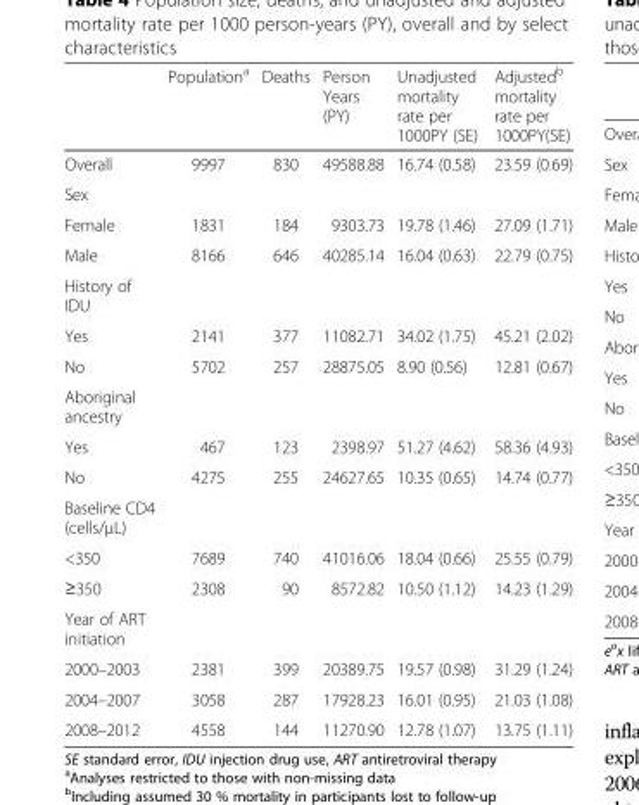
<table><thead><tr><td></td><td>Population<sup>a</sup></td><td>Deaths</td><td>Person Years (PY)</td><td>Unadjusted mortality rate per 1000PY (SE)</td><td>Adjusted<sup>b</sup> mortality rate per 1000PY(SE)</td></tr></thead><tbody><tr><td>Overall</td><td>9997</td><td>830</td><td>49588.88</td><td>16.74 (0.58)</td><td>23.59 (0.69)</td></tr><tr><td colspan="6">Sex</td></tr><tr><td>Female</td><td>1831</td><td>184</td><td>9303.73</td><td>19.78 (1.46)</td><td>27.09 (1.71)</td></tr><tr><td>Male</td><td>8166</td><td>646</td><td>40285.14</td><td>16.04 (0.63)</td><td>22.79 (0.75)</td></tr><tr><td colspan="6">History of IDU</td></tr><tr><td>Yes</td><td>2141</td><td>377</td><td>11082.71</td><td>34.02 (1.75)</td><td>45.21 (2.02)</td></tr><tr><td>No</td><td>5702</td><td>257</td><td>28875.05</td><td>8.90 (0.56)</td><td>12.81 (0.67)</td></tr><tr><td colspan="6">Aboriginal ancestry</td></tr><tr><td>Yes</td><td>467</td><td>123</td><td>2398.97</td><td>51.27 (4.62)</td><td>58.36 (4.93)</td></tr><tr><td>No</td><td>4275</td><td>255</td><td>24627.65</td><td>10.35 (0.65)</td><td>14.74 (0.77)</td></tr><tr><td colspan="6">Baseline CD4 (cells/μL)</td></tr><tr><td>&lt;350</td><td>7689</td><td>740</td><td>41016.06</td><td>18.04 (0.66)</td><td>25.55 (0.79)</td></tr><tr><td>≥350</td><td>2308</td><td>90</td><td>8572.82</td><td>10.50 (1.12)</td><td>14.23 (1.29)</td></tr><tr><td colspan="6">Year of ART initiation</td></tr><tr><td>2000–2003</td><td>2381</td><td>399</td><td>20389.75</td><td>19.57 (0.98)</td><td>31.29 (1.24)</td></tr><tr><td>2004–2007</td><td>3058</td><td>287</td><td>17928.23</td><td>16.01 (0.95)</td><td>21.03 (1.08)</td></tr><tr><td>2008–2012</td><td>4558</td><td>144</td><td>11270.90</td><td>12.78 (1.07)</td><td>13.75 (1.11)</td></tr></tbody></table>